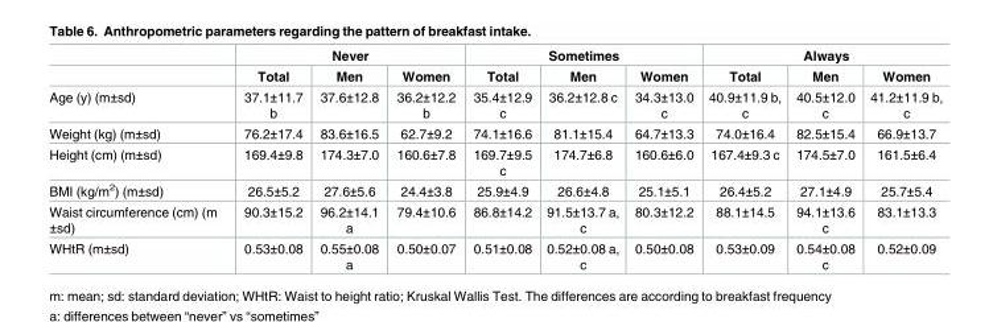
<table><thead><tr><td rowspan="2"></td><td colspan="3">Never</td><td colspan="3">Sometimes</td><td colspan="3">Always</td></tr><tr><td>Total</td><td>Men</td><td>Women</td><td>Total</td><td>Men</td><td>Women</td><td>Total</td><td>Men</td><td>Women</td></tr></thead><tbody><tr><td>Age (y) (m±sd)</td><td>37.1±11.7 b</td><td>37.6±12.8</td><td>36.2±12.2 b</td><td>35.4±12.9 c</td><td>36.2±12.8 c</td><td>34.3±13.0 c</td><td>40.9±11.9 b, c</td><td>40.5±12.0 c</td><td>41.2±11.9 b, c</td></tr><tr><td>Weight (kg) (m±sd)</td><td>76.2±17.4</td><td>83.6±16.5</td><td>62.7±9.2</td><td>74.1±16.6</td><td>81.1±15.4</td><td>64.7±13.3</td><td>74.0±16.4</td><td>82.5±15.4</td><td>66.9±13.7</td></tr><tr><td>Height (cm) (m±sd)</td><td>169.4±9.8</td><td>174.3±7.0</td><td>160.6±7.8</td><td>169.7±9.5 c</td><td>174.7±6.8</td><td>160.6±6.0</td><td>167.4±9.3 c</td><td>174.5±7.0</td><td>161.5±6.4</td></tr><tr><td>BMI (kg/m<sup>2</sup>) (m±sd)</td><td>26.5±5.2</td><td>27.6±5.6</td><td>24.4±3.8</td><td>25.9±4.9</td><td>26.6±4.8</td><td>25.1±5.1</td><td>26.4±5.2</td><td>27.1±4.9</td><td>25.7±5.4</td></tr><tr><td>Waist circumference (cm) (m ±sd)</td><td>90.3±15.2</td><td>96.2±14.1 a</td><td>79.4±10.6</td><td>86.8±14.2</td><td>91.5±13.7 a, c</td><td>80.3±12.2</td><td>88.1±14.5</td><td>94.1±13.6 c</td><td>83.1±13.3</td></tr><tr><td>WHtR (m±sd)</td><td>0.53±0.08</td><td>0.55±0.08 a</td><td>0.50±0.07</td><td>0.51±0.08</td><td>0.52±0.08 a, c</td><td>0.50±0.08</td><td>0.53±0.09</td><td>0.54±0.08 c</td><td>0.52±0.09</td></tr></tbody></table>